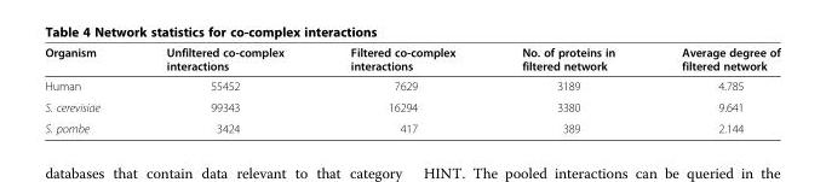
<table><thead><tr><td>Organism</td><td>Unfiltered co-complex interactions</td><td>Filtered co-complex interactions</td><td>No. of proteins in filtered network</td><td>Average degree of filtered network</td></tr></thead><tbody><tr><td>Human</td><td>55452</td><td>7629</td><td>3189</td><td>4.785</td></tr><tr><td>S. cerevisiae</td><td>99343</td><td>16294</td><td>3380</td><td>9.641</td></tr><tr><td>S. pombe</td><td>3424</td><td>417</td><td>389</td><td>2.144</td></tr></tbody></table>